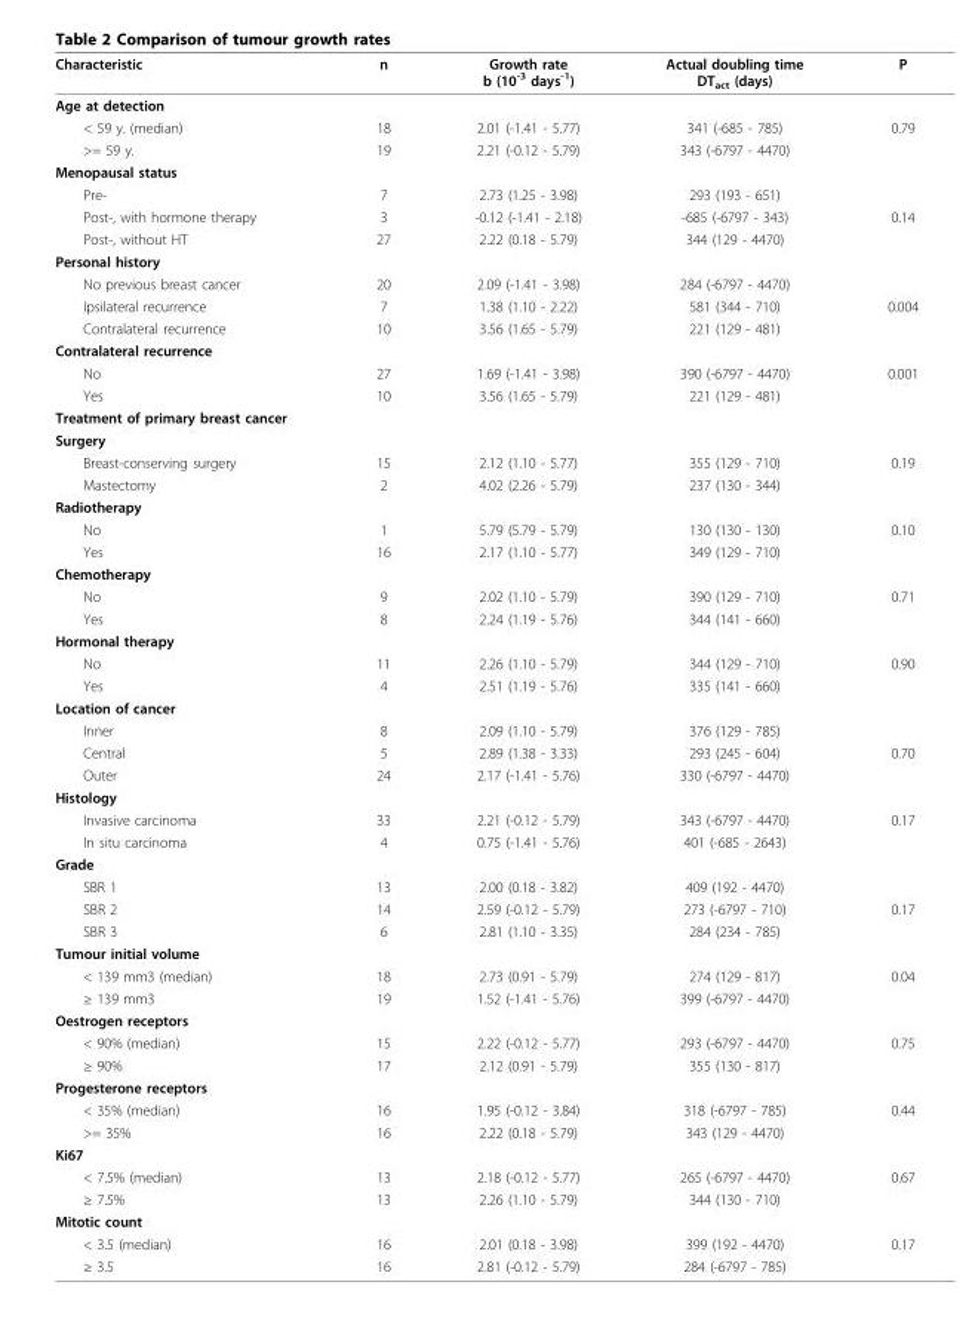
<table><thead><tr><td>Characteristic</td><td>n</td><td>Growth rate b (10<sup>-3</sup> days<sup>-1</sup>)</td><td>Actual doubling time DT<sub>act</sub> (days)</td><td>P</td></tr></thead><tbody><tr><td colspan="5">Age at detection</td></tr><tr><td>&lt; 59 y. (median)</td><td>18</td><td>2.01 (-1.41 - 5.77)</td><td>341 (-685 - 785)</td><td>0.79</td></tr><tr><td>&gt;= 59 y.</td><td>19</td><td>2.21 (-0.12 - 5.79)</td><td>343 (-6797 - 4470)</td><td></td></tr><tr><td colspan="5">Menopausal status</td></tr><tr><td>Pre-</td><td>7</td><td>2.73 (1.25 - 3.98)</td><td>293 (193 - 651)</td><td></td></tr><tr><td>Post-, with hormone therapy</td><td>3</td><td>-0.12 (-1.41 - 2.18)</td><td>-685 (-6797 - 343)</td><td>0.14</td></tr><tr><td>Post-, without HT</td><td>27</td><td>2.22 (0.18 - 5.79)</td><td>344 (129 - 4470)</td><td></td></tr><tr><td colspan="5">Personal history</td></tr><tr><td>No previous breast cancer</td><td>20</td><td>2.09 (-1.41 - 3.98)</td><td>284 (-6797 - 4470)</td><td></td></tr><tr><td>Ipsilateral recurrence</td><td>7</td><td>1.38 (1.10 - 2.22)</td><td>581 (344 - 710)</td><td>0.004</td></tr><tr><td>Contralateral recurrence</td><td>10</td><td>3.56 (1.65 - 5.79)</td><td>221 (129 - 481)</td><td></td></tr><tr><td colspan="5">Contralateral recurrence</td></tr><tr><td>No</td><td>27</td><td>1.69 (-1.41 - 3.98)</td><td>390 (-6797 - 4470)</td><td>0.001</td></tr><tr><td>Yes</td><td>10</td><td>3.56 (1.65 - 5.79)</td><td>221 (129 - 481)</td><td></td></tr><tr><td colspan="5">Treatment of primary breast cancer</td></tr><tr><td colspan="5">Surgery</td></tr><tr><td>Breast-conserving surgery</td><td>15</td><td>2.12 (1.10 - 5.77)</td><td>355 (129 - 710)</td><td>0.19</td></tr><tr><td>Mastectomy</td><td>2</td><td>4.02 (2.26 - 5.79)</td><td>237 (130 - 344)</td><td></td></tr><tr><td colspan="5">Radiotherapy</td></tr><tr><td>No</td><td>1</td><td>5.79 (5.79 - 5.79)</td><td>130 (130 - 130)</td><td>0.10</td></tr><tr><td>Yes</td><td>16</td><td>2.17 (1.10 - 5.77)</td><td>349 (129 - 710)</td><td></td></tr><tr><td colspan="5">Chemotherapy</td></tr><tr><td>No</td><td>9</td><td>2.02 (1.10 - 5.79)</td><td>390 (129 - 710)</td><td>0.71</td></tr><tr><td>Yes</td><td>8</td><td>2.24 (1.19 - 5.76)</td><td>344 (141 - 660)</td><td></td></tr><tr><td colspan="5">Hormonal therapy</td></tr><tr><td>No</td><td>11</td><td>2.26 (1.10 - 5.79)</td><td>344 (129 - 710)</td><td>0.90</td></tr><tr><td>Yes</td><td>4</td><td>2.51 (1.19 - 5.76)</td><td>335 (141 - 660)</td><td></td></tr><tr><td colspan="5">Location of cancer</td></tr><tr><td>Inner</td><td>8</td><td>2.09 (1.10 - 5.79)</td><td>376 (129 - 785)</td><td></td></tr><tr><td>Central</td><td>5</td><td>2.89 (1.38 - 3.33)</td><td>293 (245 - 604)</td><td>0.70</td></tr><tr><td>Outer</td><td>24</td><td>2.17 (-1.41 - 5.76)</td><td>330 (-6797 - 4470)</td><td></td></tr><tr><td colspan="5">Histology</td></tr><tr><td>Invasive carcinoma</td><td>33</td><td>2.21 (-0.12 - 5.79)</td><td>343 (-6797 - 4470)</td><td>0.17</td></tr><tr><td>In situ carcinoma</td><td>4</td><td>0.75 (-1.41 - 5.76)</td><td>401 (-685 - 2643)</td><td></td></tr><tr><td colspan="5">Grade</td></tr><tr><td>SBR 1</td><td>13</td><td>2.00 (0.18 - 3.82)</td><td>409 (192 - 4470)</td><td></td></tr><tr><td>SBR 2</td><td>14</td><td>2.59 (-0.12 - 5.79)</td><td>273 (-6797 - 710)</td><td>0.17</td></tr><tr><td>SBR 3</td><td>6</td><td>2.81 (1.10 - 3.35)</td><td>284 (234 - 785)</td><td></td></tr><tr><td colspan="5">Tumour initial volume</td></tr><tr><td>&lt; 139 mm3 (median)</td><td>18</td><td>2.73 (0.91 - 5.79)</td><td>274 (129 - 817)</td><td>0.04</td></tr><tr><td>≥ 139 mm3</td><td>19</td><td>1.52 (-1.41 - 5.76)</td><td>399 (-6797 - 4470)</td><td></td></tr><tr><td colspan="5">Oestrogen receptors</td></tr><tr><td>&lt; 90% (median)</td><td>15</td><td>2.22 (-0.12 - 5.77)</td><td>293 (-6797 - 4470)</td><td>0.75</td></tr><tr><td>≥ 90%</td><td>17</td><td>2.12 (0.91 - 5.79)</td><td>355 (130 - 817)</td><td></td></tr><tr><td colspan="5">Progesterone receptors</td></tr><tr><td>&lt; 35% (median)</td><td>16</td><td>1.95 (-0.12 - 3.84)</td><td>318 (-6797 - 785)</td><td>0.44</td></tr><tr><td>&gt;= 35%</td><td>16</td><td>2.22 (0.18 - 5.79)</td><td>343 (129 - 4470)</td><td></td></tr><tr><td colspan="5">Ki67</td></tr><tr><td>&lt; 7.5% (median)</td><td>13</td><td>2.18 (-0.12 - 5.77)</td><td>265 (-6797 - 4470)</td><td>0.67</td></tr><tr><td>≥ 7.5%</td><td>13</td><td>2.26 (1.10 - 5.79)</td><td>344 (130 - 710)</td><td></td></tr><tr><td colspan="5">Mitotic count</td></tr><tr><td>&lt; 3.5 (median)</td><td>16</td><td>2.01 (0.18 - 3.98)</td><td>399 (192 - 4470)</td><td>0.17</td></tr><tr><td>≥ 3.5</td><td>16</td><td>2.81 (-0.12 - 5.79)</td><td>284 (-6797 - 785)</td><td></td></tr></tbody></table>